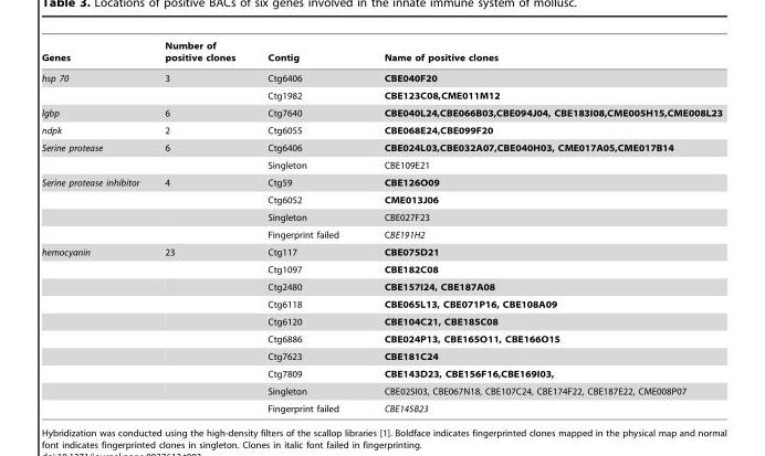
<table><thead><tr><td>Genes</td><td>Number of positive clones</td><td>Contig</td><td>Name of positive clones</td></tr></thead><tbody><tr><td rowspan="2">hsp 70</td><td>3</td><td>Ctg6406</td><td>CBE040F20</td></tr><tr><td></td><td>Ctg1982</td><td>CBE123C08,CME011M12</td></tr><tr><td>lgbp</td><td>6</td><td>Ctg7640</td><td>CBE040L24,CBE066B03,CBE094J04, CBE183I08,CME005H15,CME008L23</td></tr><tr><td>ndpk</td><td>2</td><td>Ctg6055</td><td>CBE068E24,CBE099F20</td></tr><tr><td rowspan="2">Serine protease</td><td>6</td><td>Ctg6406</td><td>CBE024L03,CBE032A07,CBE040H03, CME017A05,CME017B14</td></tr><tr><td></td><td>Singleton</td><td>CBE109E21</td></tr><tr><td rowspan="4">Serine protease inhibitor</td><td>4</td><td>Ctg59</td><td>CBE126O09</td></tr><tr><td></td><td>Ctg6052</td><td>CME013J06</td></tr><tr><td></td><td>Singleton</td><td>CBE027F23</td></tr><tr><td></td><td>Fingerprint failed</td><td>CBE191H2</td></tr><tr><td rowspan="10">hemocyanin</td><td>23</td><td>Ctg117</td><td>CBE075D21</td></tr><tr><td></td><td>Ctg1097</td><td>CBE182C08</td></tr><tr><td></td><td>Ctg2480</td><td>CBE157I24, CBE187A08</td></tr><tr><td></td><td>Ctg6118</td><td>CBE065L13, CBE071P16, CBE108A09</td></tr><tr><td></td><td>Ctg6120</td><td>CBE104C21, CBE185C08</td></tr><tr><td></td><td>Ctg6886</td><td>CBE024P13, CBE165O11, CBE166O15</td></tr><tr><td></td><td>Ctg7623</td><td>CBE181C24</td></tr><tr><td></td><td>Ctg7809</td><td>CBE143D23, CBE156F16,CBE169I03,</td></tr><tr><td></td><td>Singleton</td><td>CBE025I03, CBE067N18, CBE107C24, CBE174F22, CBE187E22, CME008P07</td></tr><tr><td></td><td>Fingerprint failed</td><td>CBE145B23</td></tr></tbody></table>